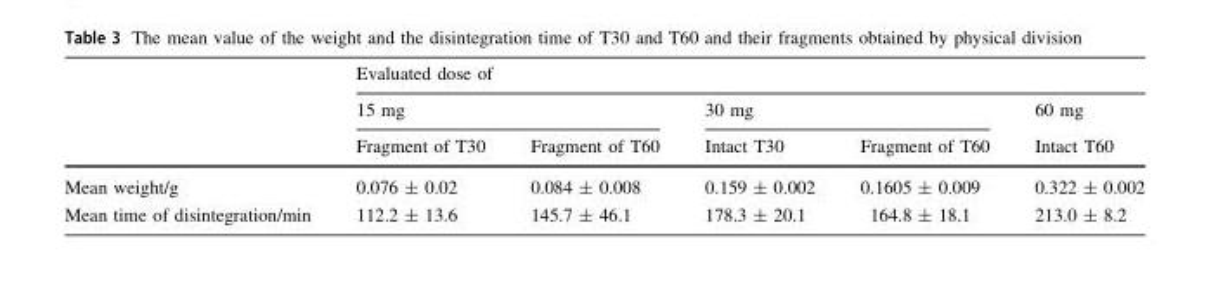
<table><thead><tr><td rowspan="3"></td><td colspan="5">Evaluated dose of</td></tr><tr><td colspan="2">15 mg</td><td colspan="2">30 mg</td><td rowspan="2">60 mg Intact T60</td></tr><tr><td>Fragment of T30</td><td>Fragment of T60</td><td>Intact T30</td><td>Fragment of T60</td></tr></thead><tbody><tr><td>Mean weight/g</td><td>0.076 ± 0.02</td><td>0.084 ± 0.008</td><td>0.159 ± 0.002</td><td>0.1605 ± 0.009</td><td>0.322 ± 0.002</td></tr><tr><td>Mean time of disintegration/min</td><td>112.2 ± 13.6</td><td>145.7 ± 46.1</td><td>178.3 ± 20.1</td><td>164.8 ± 18.1</td><td>213.0 ± 8.2</td></tr></tbody></table>